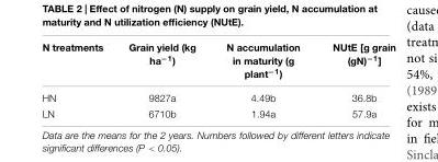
<table><thead><tr><td>N treatments</td><td>Grain yield (kg ha<sup>−1</sup>)</td><td>N accumulation in maturity (g plant<sup>−1</sup>)</td><td>NUtE [g grain (gN)<sup>−1</sup>]</td></tr></thead><tbody><tr><td>HN</td><td>9827a</td><td>4.49b</td><td>36.8b</td></tr><tr><td>LN</td><td>6710b</td><td>1.94a</td><td>57.9a</td></tr></tbody></table>